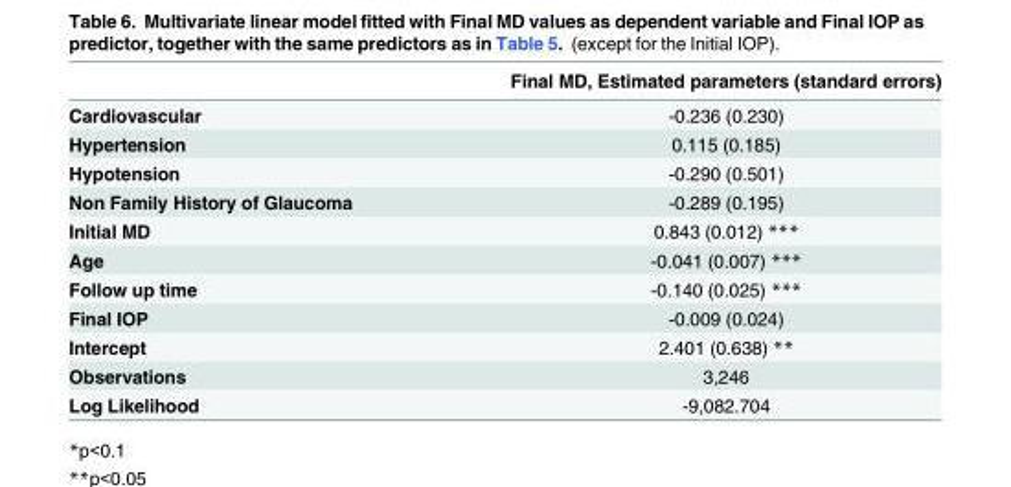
<table><thead><tr><td></td><td>Final MD, Estimated parameters (standard errors)</td></tr></thead><tbody><tr><td>Cardiovascular</td><td>-0.236 (0.230)</td></tr><tr><td>Hypertension</td><td>0.115 (0.185)</td></tr><tr><td>Hypotension</td><td>-0.290 (0.501)</td></tr><tr><td>Non Family History of Glaucoma</td><td>-0.289 (0.195)</td></tr><tr><td>Initial MD</td><td>0.843 (0.012) ***</td></tr><tr><td>Age</td><td>-0.041 (0.007) ***</td></tr><tr><td>Follow up time</td><td>-0.140 (0.025) ***</td></tr><tr><td>Final IOP</td><td>-0.009 (0.024)</td></tr><tr><td>Intercept</td><td>2.401 (0.638) **</td></tr><tr><td>Observations</td><td>3,246</td></tr><tr><td>Log Likelihood</td><td>-9,082.704</td></tr></tbody></table>